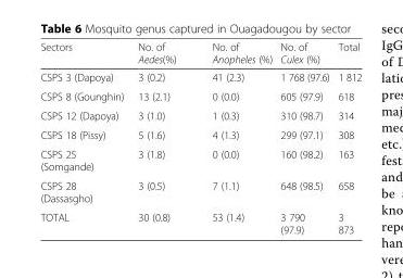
<table><thead><tr><td>Sectors</td><td>No. of Aedes(%)</td><td>No. of Anopheles (%)</td><td>No. of Culex (%)</td><td>Total</td></tr></thead><tbody><tr><td>CSPS 3 (Dapoya)</td><td>3 (0.2)</td><td>41 (2.3)</td><td>1 768 (97.6)</td><td>1 812</td></tr><tr><td>CSPS 8 (Gounghin)</td><td>13 (2.1)</td><td>0 (0.0)</td><td>605 (97.9)</td><td>618</td></tr><tr><td>CSPS 12 (Dapoya)</td><td>3 (1.0)</td><td>1 (0.3)</td><td>310 (98.7)</td><td>314</td></tr><tr><td>CSPS 18 (Pissy)</td><td>5 (1.6)</td><td>4 (1.3)</td><td>299 (97.1)</td><td>308</td></tr><tr><td>CSPS 25 (Somgande)</td><td>3 (1.8)</td><td>0 (0.0)</td><td>160 (98.2)</td><td>163</td></tr><tr><td>CSPS 28 (Dassasgho)</td><td>3 (0.5)</td><td>7 (1.1)</td><td>648 (98.5)</td><td>658</td></tr><tr><td>TOTAL</td><td>30 (0.8)</td><td>53 (1.4)</td><td>3 790 (97.9)</td><td>3 873</td></tr></tbody></table>